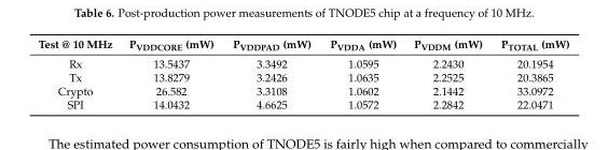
<table><thead><tr><td>Test @ 10 MHz</td><td>P<sub>VDDCORE</sub> (mW)</td><td>P<sub>VDDPAD</sub> (mW)</td><td>P<sub>VDDA</sub> (mW)</td><td>P<sub>VDDM</sub> (mW)</td><td>P<sub>TOTAL</sub> (mW)</td></tr></thead><tbody><tr><td>Rx</td><td>13.5437</td><td>3.3492</td><td>1.0595</td><td>2.2430</td><td>20.1954</td></tr><tr><td>Tx</td><td>13.8279</td><td>3.2426</td><td>1.0635</td><td>2.2525</td><td>20.3865</td></tr><tr><td>Crypto</td><td>26.582</td><td>3.3108</td><td>1.0602</td><td>2.1442</td><td>33.0972</td></tr><tr><td>SPI</td><td>14.0432</td><td>4.6625</td><td>1.0572</td><td>2.2842</td><td>22.0471</td></tr></tbody></table>